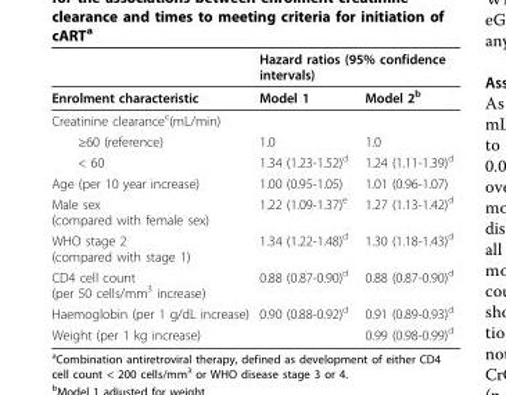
<table><thead><tr><td rowspan="2">Enrolment characteristic</td><td colspan="2">Hazard ratios (95% confidence intervals)</td></tr><tr><td>Model 1</td><td>Model 2<sup>b</sup></td></tr></thead><tbody><tr><td colspan="3">Creatinine clearance<sup>c</sup>(mL/min)</td></tr><tr><td>≥60 (reference)</td><td>1.0</td><td>1.0</td></tr><tr><td>&lt; 60</td><td>1.34 (1.23-1.52)<sup>d</sup></td><td>1.24 (1.11-1.39)<sup>d</sup></td></tr><tr><td>Age (per 10 year increase)</td><td>1.00 (0.95-1.05)</td><td>1.01 (0.96-1.07)</td></tr><tr><td>Male sex (compared with female sex)</td><td>1.22 (1.09-1.37)<sup>e</sup></td><td>1.27 (1.13-1.42)<sup>d</sup></td></tr><tr><td>WHO stage 2 (compared with stage 1)</td><td>1.34 (1.22-1.48)<sup>d</sup></td><td>1.30 (1.18-1.43)<sup>d</sup></td></tr><tr><td>CD4 cell count (per 50 cells/mm<sup>3</sup> increase)</td><td>0.88 (0.87-0.90)<sup>d</sup></td><td>0.88 (0.87-0.90)<sup>d</sup></td></tr><tr><td>Haemoglobin (per 1 g/dL increase)</td><td>0.90 (0.88-0.92)<sup>d</sup></td><td>0.91 (0.89-0.93)<sup>d</sup></td></tr><tr><td>Weight (per 1 kg increase)</td><td></td><td>0.99 (0.98-0.99)<sup>d</sup></td></tr></tbody></table>